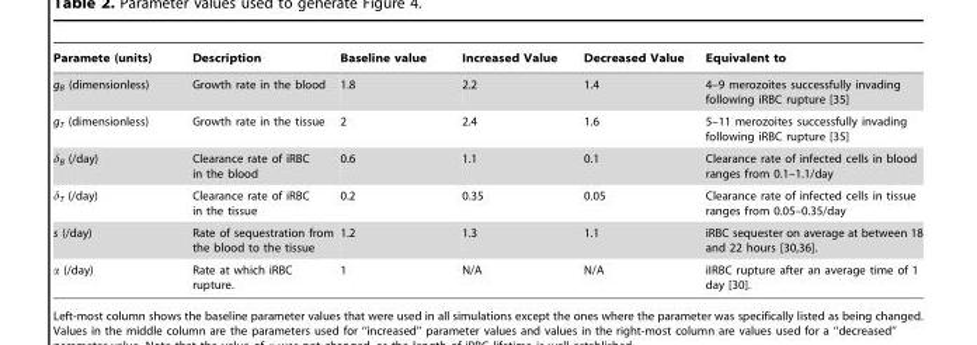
<table><thead><tr><td>Paramete (units)</td><td>Description</td><td>Baseline value</td><td>Increased Value</td><td>Decreased Value</td><td>Equivalent to</td></tr></thead><tbody><tr><td>g<sub>B</sub> (dimensionless)</td><td>Growth rate in the blood</td><td>1.8</td><td>2.2</td><td>1.4</td><td>4–9 merozoites successfully invading following iRBC rupture [35]</td></tr><tr><td>g<sub>T</sub> (dimensionless)</td><td>Growth rate in the tissue</td><td>2</td><td>2.4</td><td>1.6</td><td>5–11 merozoites successfully invading following iRBC rupture [35]</td></tr><tr><td>δ<sub>B</sub> (/day)</td><td>Clearance rate of iRBC in the blood</td><td>0.6</td><td>1.1</td><td>0.1</td><td>Clearance rate of infected cells in blood ranges from 0.1–1.1/day</td></tr><tr><td>δ<sub>T</sub> (/day)</td><td>Clearance rate of iRBC in the tissue</td><td>0.2</td><td>0.35</td><td>0.05</td><td>Clearance rate of infected cells in tissue ranges from 0.05–0.35/day</td></tr><tr><td>s (/day)</td><td>Rate of sequestration from the blood to the tissue</td><td>1.2</td><td>1.3</td><td>1.1</td><td>iRBC sequester on average at between 18 and 22 hours [30,36].</td></tr><tr><td>α (/day)</td><td>Rate at which iRBC rupture.</td><td>1</td><td>N/A</td><td>N/A</td><td>iIRBC rupture after an average time of 1 day [30].</td></tr></tbody></table>